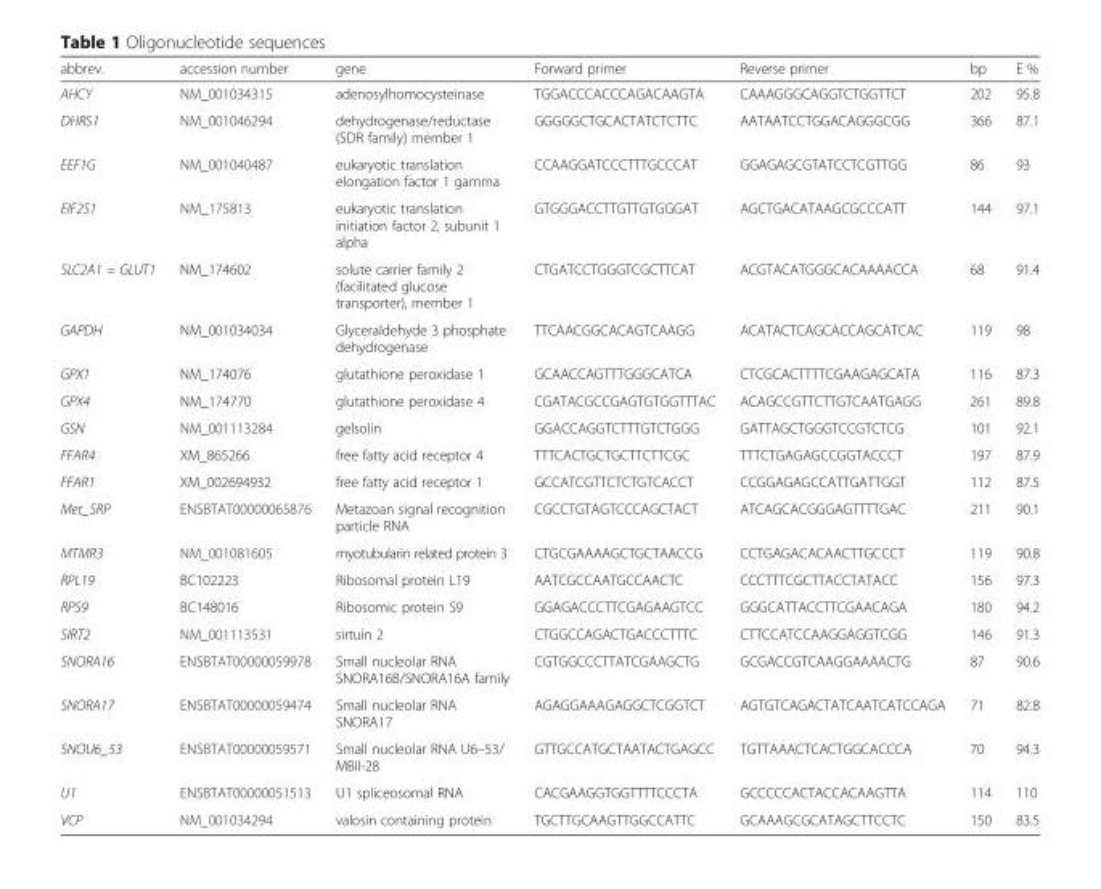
<table><thead><tr><td>abbrev.</td><td>accession number</td><td>gene</td><td>Forward primer</td><td>Reverse primer</td><td>bp</td><td>E %</td></tr></thead><tbody><tr><td>AHCY</td><td>NM_001034315</td><td>adenosylhomocysteinase</td><td>TGGACCCACCCAGACAAGTA</td><td>CAAAGGGCAGGTCTGGTTCT</td><td>202</td><td>95.8</td></tr><tr><td>DHRS1</td><td>NM_001046294</td><td>dehydrogenase/reductase (SDR family) member 1</td><td>GGGGGCTGCACTATCTCTTC</td><td>AATAATCCTGGACAGGGCGG</td><td>366</td><td>87.1</td></tr><tr><td>EEF1G</td><td>NM_001040487</td><td>eukaryotic translation elongation factor 1 gamma</td><td>CCAAGGATCCCTTTGCCCAT</td><td>GGAGAGCGTATCCTCGTTGG</td><td>86</td><td>93</td></tr><tr><td>EIF2S1</td><td>NM_175813</td><td>eukaryotic translation initiation factor 2, subunit 1 alpha</td><td>GTGGGACCTTGTTGTGGGAT</td><td>AGCTGACATAAGCGCCCATT</td><td>144</td><td>97.1</td></tr><tr><td>SLC2A1 = GLUT1</td><td>NM_174602</td><td>solute carrier family 2 (facilitated glucose transporter), member 1</td><td>CTGATCCTGGGTCGCTTCAT</td><td>ACGTACATGGGCACAAAACCA</td><td>68</td><td>91.4</td></tr><tr><td>GAPDH</td><td>NM_001034034</td><td>Glyceraldehyde 3 phosphate dehydrogenase</td><td>TTCAACGGCACAGTCAAGG</td><td>ACATACTCAGCACCAGCATCAC</td><td>119</td><td>98</td></tr><tr><td>GPX1</td><td>NM_174076</td><td>glutathione peroxidase 1</td><td>GCAACCAGTTTGGGCATCA</td><td>CTCGCACTTTTCGAAGAGCATA</td><td>116</td><td>87.3</td></tr><tr><td>GPX4</td><td>NM_174770</td><td>glutathione peroxidase 4</td><td>CGATACGCCGAGTGTGGTTTAC</td><td>ACAGCCGTTCTTGTCAATGAGG</td><td>261</td><td>89.8</td></tr><tr><td>GSN</td><td>NM_001113284</td><td>gelsolin</td><td>GGACCAGGTCTTTGTCTGGG</td><td>GATTAGCTGGGTCCGTCTCG</td><td>101</td><td>92.1</td></tr><tr><td>FFAR4</td><td>XM_865266</td><td>free fatty acid receptor 4</td><td>TTTCACTGCTGCTTCTTCGC</td><td>TTTCTGAGAGCCGGTACCCT</td><td>197</td><td>87.9</td></tr><tr><td>FFAR1</td><td>XM_002694932</td><td>free fatty acid receptor 1</td><td>GCCATCGTTCTCTGTCACCT</td><td>CCGGAGAGCCATTGATTGGT</td><td>112</td><td>87.5</td></tr><tr><td>Met_SRP</td><td>ENSBTAT00000065876</td><td>Metazoan signal recognition particle RNA</td><td>CGCCTGTAGTCCCAGCTACT</td><td>ATCAGCACGGGAGTTTTGAC</td><td>211</td><td>90.1</td></tr><tr><td>MTMR3</td><td>NM_001081605</td><td>myotubularin related protein 3</td><td>CTGCGAAAAGCTGCTAACCG</td><td>CCTGAGACACAACTTGCCCT</td><td>119</td><td>90.8</td></tr><tr><td>RPL19</td><td>BC102223</td><td>Ribosomal protein L19</td><td>AATCGCCAATGCCAACTC</td><td>CCCTTTCGCTTACCTATACC</td><td>156</td><td>97.3</td></tr><tr><td>RPS9</td><td>BC148016</td><td>Ribosomic protein S9</td><td>GGAGACCCTTCGAGAAGTCC</td><td>GGGCATTACCTTCGAACAGA</td><td>180</td><td>94.2</td></tr><tr><td>SIRT2</td><td>NM_001113531</td><td>sirtuin 2</td><td>CTGGCCAGACTGACCCTTTC</td><td>CTTCCATCCAAGGAGGTCGG</td><td>146</td><td>91.3</td></tr><tr><td>SNORA16</td><td>ENSBTAT00000059978</td><td>Small nucleolar RNA SNORA16B/SNORA16A family</td><td>CGTGGCCCTTATCGAAGCTG</td><td>GCGACCGTCAAGGAAAACTG</td><td>87</td><td>90.6</td></tr><tr><td>SNORA17</td><td>ENSBTAT00000059474</td><td>Small nucleolar RNA SNORA17</td><td>AGAGGAAAGAGGCTCGGTCT</td><td>AGTGTCAGACTATCAATCATCCAGA</td><td>71</td><td>82.8</td></tr><tr><td>SNOU6_53</td><td>ENSBTAT00000059571</td><td>Small nucleolar RNA U6–53/ MBII-28</td><td>GTTGCCATGCTAATACTGAGCC</td><td>TGTTAAACTCACTGGCACCCA</td><td>70</td><td>94.3</td></tr><tr><td>U1</td><td>ENSBTAT00000051513</td><td>U1 spliceosomal RNA</td><td>CACGAAGGTGGTTTTCCCTA</td><td>GCCCCCACTACCACAAGTTA</td><td>114</td><td>110</td></tr><tr><td>VCP</td><td>NM_001034294</td><td>valosin containing protein</td><td>TGCTTGCAAGTTGGCCATTC</td><td>GCAAAGCGCATAGCTTCCTC</td><td>150</td><td>83.5</td></tr></tbody></table>